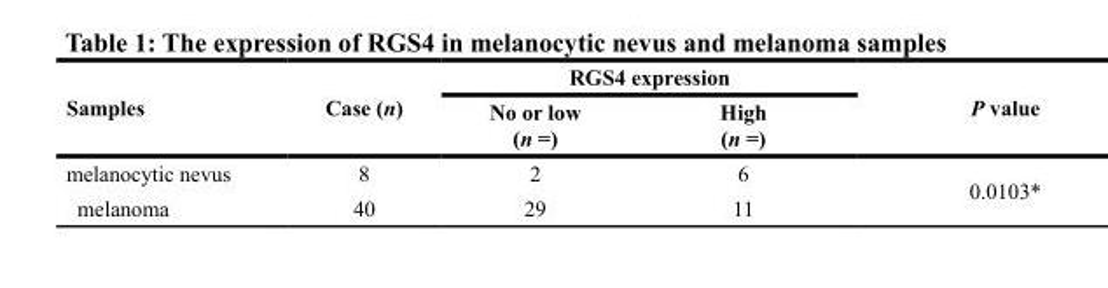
<table><thead><tr><td rowspan="2">Samples</td><td rowspan="2">Case (n)</td><td colspan="2">RGS4 expression</td><td rowspan="2">P value</td></tr><tr><td>No or low (n =)</td><td>High (n =)</td></tr></thead><tbody><tr><td>melanocytic nevus</td><td>8</td><td>2</td><td>6</td><td rowspan="2">0.0103*</td></tr><tr><td>melanoma</td><td>40</td><td>29</td><td>11</td></tr></tbody></table>